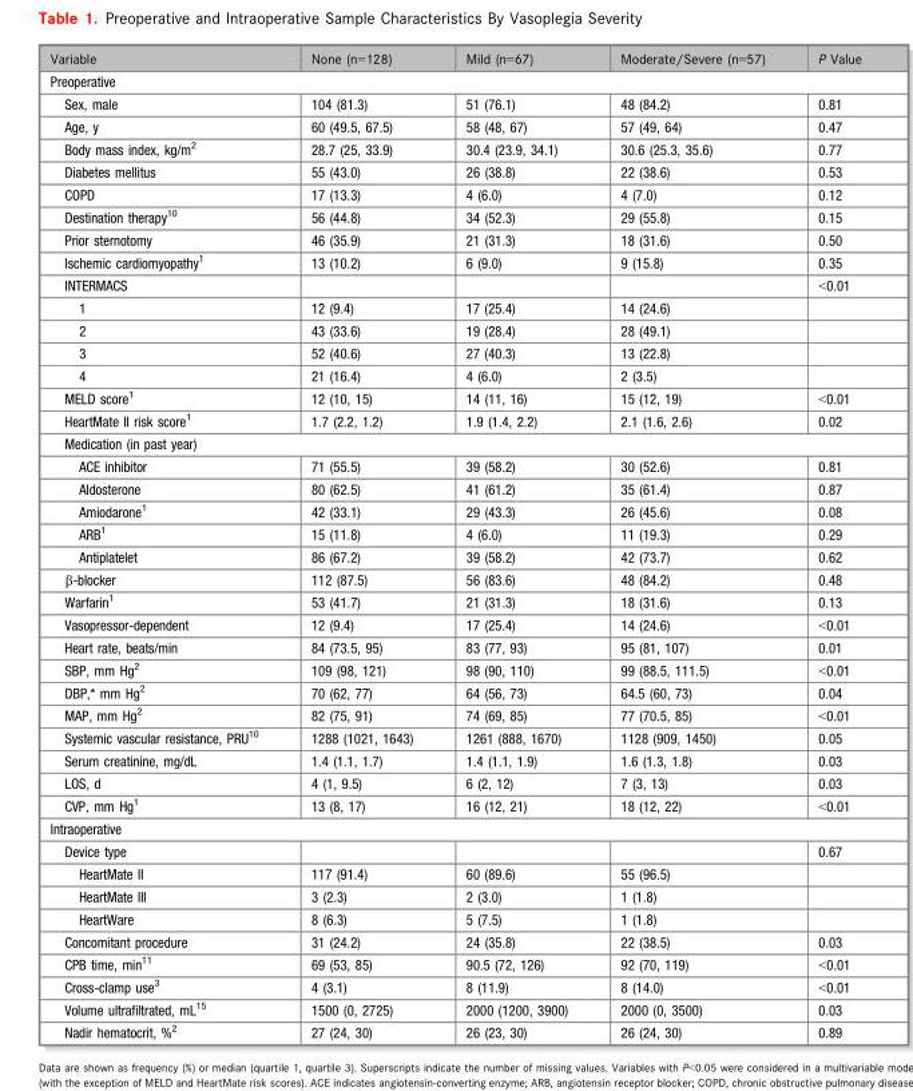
<table><thead><tr><td>Variable</td><td>None (n=128)</td><td>Mild (n=67)</td><td>Moderate/Severe (n=57)</td><td>P Value</td></tr></thead><tbody><tr><td colspan="5">Preoperative</td></tr><tr><td>Sex, male</td><td>104 (81.3)</td><td>51 (76.1)</td><td>48 (84.2)</td><td>0.81</td></tr><tr><td>Age, y</td><td>60 (49.5, 67.5)</td><td>58 (48, 67)</td><td>57 (49, 64)</td><td>0.47</td></tr><tr><td>Body mass index, kg/m<sup>2</sup></td><td>28.7 (25, 33.9)</td><td>30.4 (23.9, 34.1)</td><td>30.6 (25.3, 35.6)</td><td>0.77</td></tr><tr><td>Diabetes mellitus</td><td>55 (43.0)</td><td>26 (38.8)</td><td>22 (38.6)</td><td>0.53</td></tr><tr><td>COPD</td><td>17 (13.3)</td><td>4 (6.0)</td><td>4 (7.0)</td><td>0.12</td></tr><tr><td>Destination therapy<sup>10</sup></td><td>56 (44.8)</td><td>34 (52.3)</td><td>29 (55.8)</td><td>0.15</td></tr><tr><td>Prior sternotomy</td><td>46 (35.9)</td><td>21 (31.3)</td><td>18 (31.6)</td><td>0.50</td></tr><tr><td>Ischemic cardiomyopathy<sup>1</sup></td><td>13 (10.2)</td><td>6 (9.0)</td><td>9 (15.8)</td><td>0.35</td></tr><tr><td>INTERMACS</td><td></td><td></td><td></td><td>&lt;0.01</td></tr><tr><td>1</td><td>12 (9.4)</td><td>17 (25.4)</td><td>14 (24.6)</td><td></td></tr><tr><td>2</td><td>43 (33.6)</td><td>19 (28.4)</td><td>28 (49.1)</td><td></td></tr><tr><td>3</td><td>52 (40.6)</td><td>27 (40.3)</td><td>13 (22.8)</td><td></td></tr><tr><td>4</td><td>21 (16.4)</td><td>4 (6.0)</td><td>2 (3.5)</td><td></td></tr><tr><td>MELD score<sup>1</sup></td><td>12 (10, 15)</td><td>14 (11, 16)</td><td>15 (12, 19)</td><td>&lt;0.01</td></tr><tr><td>HeartMate II risk score<sup>1</sup></td><td>1.7 (2.2, 1.2)</td><td>1.9 (1.4, 2.2)</td><td>2.1 (1.6, 2.6)</td><td>0.02</td></tr><tr><td colspan="5">Medication (in past year)</td></tr><tr><td>ACE inhibitor</td><td>71 (55.5)</td><td>39 (58.2)</td><td>30 (52.6)</td><td>0.81</td></tr><tr><td>Aldosterone</td><td>80 (62.5)</td><td>41 (61.2)</td><td>35 (61.4)</td><td>0.87</td></tr><tr><td>Amiodarone<sup>1</sup></td><td>42 (33.1)</td><td>29 (43.3)</td><td>26 (45.6)</td><td>0.08</td></tr><tr><td>ARB<sup>1</sup></td><td>15 (11.8)</td><td>4 (6.0)</td><td>11 (19.3)</td><td>0.29</td></tr><tr><td>Antiplatelet</td><td>86 (67.2)</td><td>39 (58.2)</td><td>42 (73.7)</td><td>0.62</td></tr><tr><td>β-blocker</td><td>112 (87.5)</td><td>56 (83.6)</td><td>48 (84.2)</td><td>0.48</td></tr><tr><td>Warfarin<sup>1</sup></td><td>53 (41.7)</td><td>21 (31.3)</td><td>18 (31.6)</td><td>0.13</td></tr><tr><td>Vasopressor-dependent</td><td>12 (9.4)</td><td>17 (25.4)</td><td>14 (24.6)</td><td>&lt;0.01</td></tr><tr><td>Heart rate, beats/min</td><td>84 (73.5, 95)</td><td>83 (77, 93)</td><td>95 (81, 107)</td><td>0.01</td></tr><tr><td>SBP, mm Hg<sup>2</sup></td><td>109 (98, 121)</td><td>98 (90, 110)</td><td>99 (88.5, 111.5)</td><td>&lt;0.01</td></tr><tr><td>DBP,* mm Hg2</td><td>70 (62, 77)</td><td>64 (56, 73)</td><td>64.5 (60, 73)</td><td>0.04</td></tr><tr><td>MAP, mm Hg<sup>2</sup></td><td>82 (75, 91)</td><td>74 (69, 85)</td><td>77 (70.5, 85)</td><td>&lt;0.01</td></tr><tr><td>Systemic vascular resistance, PRU<sup>10</sup></td><td>1288 (1021, 1643)</td><td>1261 (888, 1670)</td><td>1128 (909, 1450)</td><td>0.05</td></tr><tr><td>Serum creatinine, mg/dL</td><td>1.4 (1.1, 1.7)</td><td>1.4 (1.1, 1.9)</td><td>1.6 (1.3, 1.8)</td><td>0.03</td></tr><tr><td>LOS, d</td><td>4 (1, 9.5)</td><td>6 (2, 12)</td><td>7 (3, 13)</td><td>0.03</td></tr><tr><td>CVP, mm Hg<sup>1</sup></td><td>13 (8, 17)</td><td>16 (12, 21)</td><td>18 (12, 22)</td><td>&lt;0.01</td></tr><tr><td colspan="5">Intraoperative</td></tr><tr><td>Device type</td><td></td><td></td><td></td><td>0.67</td></tr><tr><td>HeartMate II</td><td>117 (91.4)</td><td>60 (89.6)</td><td>55 (96.5)</td><td></td></tr><tr><td>HeartMate III</td><td>3 (2.3)</td><td>2 (3.0)</td><td>1 (1.8)</td><td></td></tr><tr><td>HeartWare</td><td>8 (6.3)</td><td>5 (7.5)</td><td>1 (1.8)</td><td></td></tr><tr><td>Concomitant procedure</td><td>31 (24.2)</td><td>24 (35.8)</td><td>22 (38.5)</td><td>0.03</td></tr><tr><td>CPB time, min<sup>11</sup></td><td>69 (53, 85)</td><td>90.5 (72, 126)</td><td>92 (70, 119)</td><td>&lt;0.01</td></tr><tr><td>Cross-clamp use<sup>3</sup></td><td>4 (3.1)</td><td>8 (11.9)</td><td>8 (14.0)</td><td>&lt;0.01</td></tr><tr><td>Volume ultrafiltrated, mL<sup>15</sup></td><td>1500 (0, 2725)</td><td>2000 (1200, 3900)</td><td>2000 (0, 3500)</td><td>0.03</td></tr><tr><td>Nadir hematocrit, %<sup>2</sup></td><td>27 (24, 30)</td><td>26 (23, 30)</td><td>26 (24, 30)</td><td>0.89</td></tr></tbody></table>